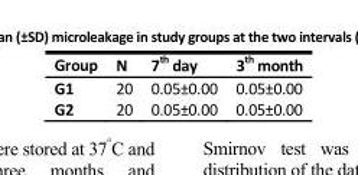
<table><thead><tr><td>Group</td><td>N</td><td>7<sup>th</sup> day</td><td>3<sup>th</sup> month</td></tr></thead><tbody><tr><td>G1</td><td>20</td><td>0.05±0.00</td><td>0.05±0.00</td></tr><tr><td>G2</td><td>20</td><td>0.05±0.00</td><td>0.05±0.00</td></tr></tbody></table>